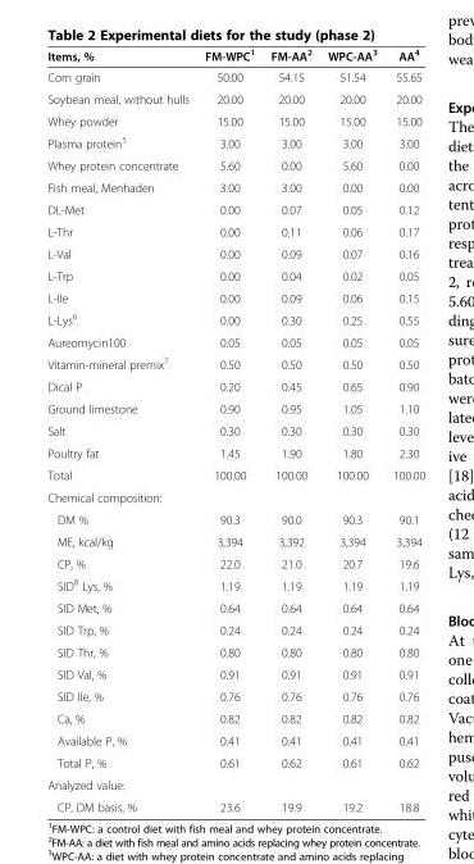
<table><thead><tr><td>Items, %</td><td>FM-WPC<sup>1</sup></td><td>FM-AA<sup>2</sup></td><td>WPC-AA<sup>3</sup></td><td>AA<sup>4</sup></td></tr></thead><tbody><tr><td>Corn grain</td><td>50.00</td><td>54.15</td><td>51.54</td><td>55.65</td></tr><tr><td>Soybean meal, without hulls</td><td>20.00</td><td>20.00</td><td>20.00</td><td>20.00</td></tr><tr><td>Whey powder</td><td>15.00</td><td>15.00</td><td>15.00</td><td>15.00</td></tr><tr><td>Plasma protein<sup>5</sup></td><td>3.00</td><td>3.00</td><td>3.00</td><td>3.00</td></tr><tr><td>Whey protein concentrate</td><td>5.60</td><td>0.00</td><td>5.60</td><td>0.00</td></tr><tr><td>Fish meal, Menhaden</td><td>3.00</td><td>3.00</td><td>0.00</td><td>0.00</td></tr><tr><td>DL-Met</td><td>0.00</td><td>0.07</td><td>0.05</td><td>0.12</td></tr><tr><td>L-Thr</td><td>0.00</td><td>0.11</td><td>0.06</td><td>0.17</td></tr><tr><td>L-Val</td><td>0.00</td><td>0.09</td><td>0.07</td><td>0.16</td></tr><tr><td>L-Trp</td><td>0.00</td><td>0.04</td><td>0.02</td><td>0.05</td></tr><tr><td>L-Ile</td><td>0.00</td><td>0.09</td><td>0.06</td><td>0.15</td></tr><tr><td>L-Lys<sup>6</sup></td><td>0.00</td><td>0.30</td><td>0.25</td><td>0.55</td></tr><tr><td>Aureomycin100</td><td>0.05</td><td>0.05</td><td>0.05</td><td>0.05</td></tr><tr><td>Vitamin-mineral premix<sup>7</sup></td><td>0.50</td><td>0.50</td><td>0.50</td><td>0.50</td></tr><tr><td>Dical P</td><td>0.20</td><td>0.45</td><td>0.65</td><td>0.90</td></tr><tr><td>Ground limestone</td><td>0.90</td><td>0.95</td><td>1.05</td><td>1.10</td></tr><tr><td>Salt</td><td>0.30</td><td>0.30</td><td>0.30</td><td>0.30</td></tr><tr><td>Poultry fat</td><td>1.45</td><td>1.90</td><td>1.80</td><td>2.30</td></tr><tr><td>Total</td><td>100.00</td><td>100.00</td><td>100.00</td><td>100.00</td></tr><tr><td colspan="5">Chemical composition:</td></tr><tr><td>DM %</td><td>90.3</td><td>90.0</td><td>90.3</td><td>90.1</td></tr><tr><td>ME, kcal/kg</td><td>3,394</td><td>3,392</td><td>3,394</td><td>3,394</td></tr><tr><td>CP, %</td><td>22.0</td><td>21.0</td><td>20.7</td><td>19.6</td></tr><tr><td>SID<sup>8</sup> Lys, %</td><td>1.19</td><td>1.19</td><td>1.19</td><td>1.19</td></tr><tr><td>SID Met, %</td><td>0.64</td><td>0.64</td><td>0.64</td><td>0.64</td></tr><tr><td>SID Trp, %</td><td>0.24</td><td>0.24</td><td>0.24</td><td>0.24</td></tr><tr><td>SID Thr, %</td><td>0.80</td><td>0.80</td><td>0.80</td><td>0.80</td></tr><tr><td>SID Val, %</td><td>0.91</td><td>0.91</td><td>0.91</td><td>0.91</td></tr><tr><td>SID Ile, %</td><td>0.76</td><td>0.76</td><td>0.76</td><td>0.76</td></tr><tr><td>Ca, %</td><td>0.82</td><td>0.82</td><td>0.82</td><td>0.82</td></tr><tr><td>Available P, %</td><td>0.41</td><td>0.41</td><td>0.41</td><td>0.41</td></tr><tr><td>Total P, %</td><td>0.61</td><td>0.62</td><td>0.61</td><td>0.62</td></tr><tr><td colspan="5">Analyzed value:</td></tr><tr><td>CP, DM basis, %</td><td>23.6</td><td>19.9</td><td>19.2</td><td>18.8</td></tr></tbody></table>